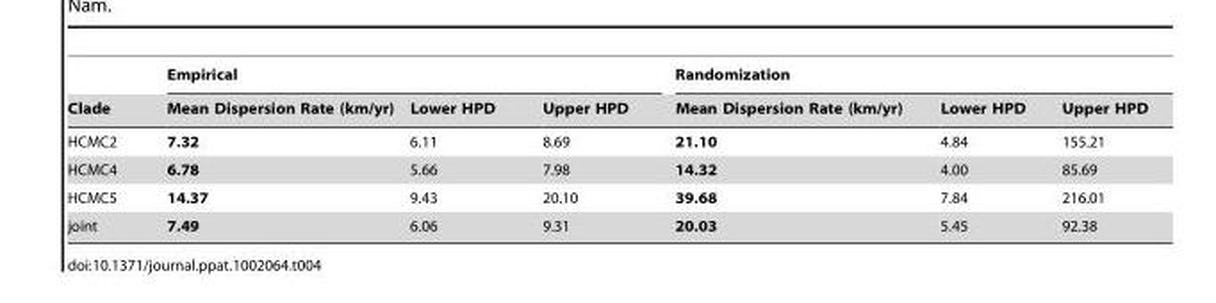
<table><thead><tr><td rowspan="2">Clade</td><td colspan="3">Empirical</td><td colspan="3">Randomization</td></tr><tr><td>Mean Dispersion Rate (km/yr)</td><td>Lower HPD</td><td>Upper HPD</td><td>Mean Dispersion Rate (km/yr)</td><td>Lower HPD</td><td>Upper HPD</td></tr></thead><tbody><tr><td>HCMC2</td><td>7.32</td><td>6.11</td><td>8.69</td><td>21.10</td><td>4.84</td><td>155.21</td></tr><tr><td>HCMC4</td><td>6.78</td><td>5.66</td><td>7.98</td><td>14.32</td><td>4.00</td><td>85.69</td></tr><tr><td>HCMC5</td><td>14.37</td><td>9.43</td><td>20.10</td><td>39.68</td><td>7.84</td><td>216.01</td></tr><tr><td>joint</td><td>7.49</td><td>6.06</td><td>9.31</td><td>20.03</td><td>5.45</td><td>92.38</td></tr></tbody></table>